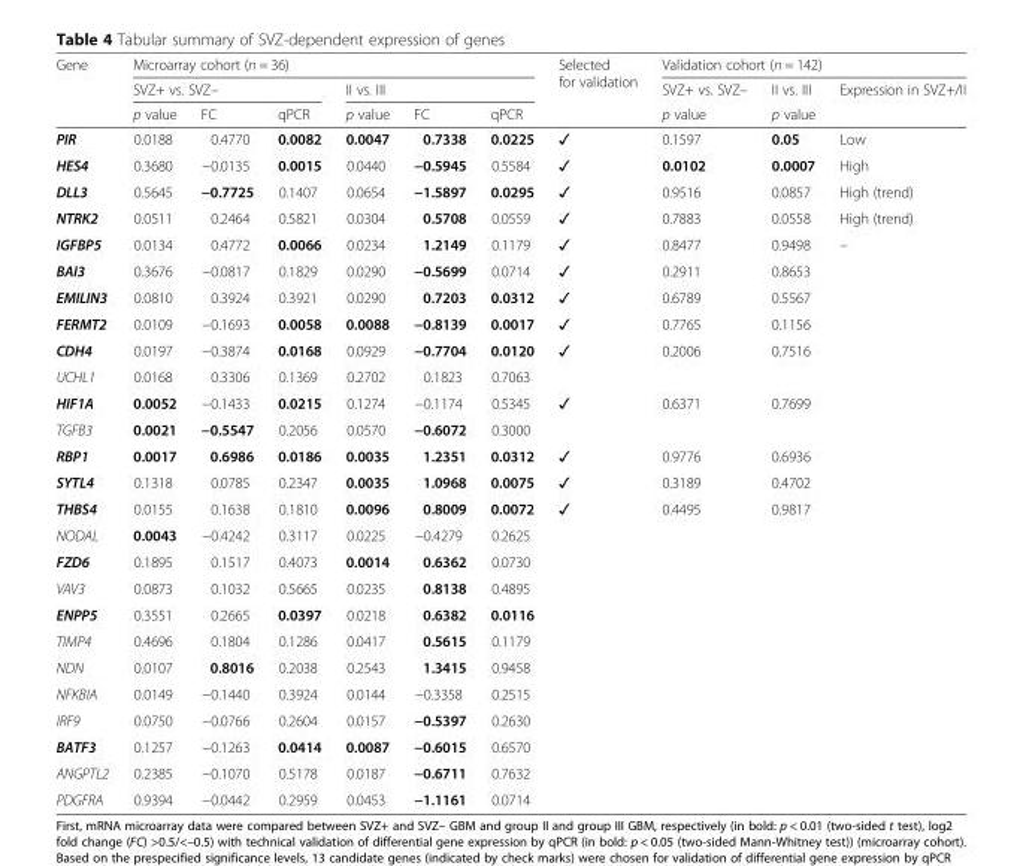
<table><thead><tr><td rowspan="3">Gene</td><td colspan="6">Microarray cohort (n = 36)</td><td rowspan="3">Selected for validation</td><td colspan="3">Validation cohort (n = 142)</td></tr><tr><td colspan="3">SVZ+ vs. SVZ–</td><td colspan="3">II vs. III</td><td rowspan="2">SVZ+ vs. SVZ– p value</td><td rowspan="2">II vs. III p value</td><td rowspan="2">Expression in SVZ+/II</td></tr><tr><td>p value</td><td>FC</td><td>qPCR</td><td>p value</td><td>FC</td><td>qPCR</td></tr></thead><tbody><tr><td>PIR</td><td>0.0188</td><td>0.4770</td><td>0.0082</td><td>0.0047</td><td>0.7338</td><td>0.0225</td><td>✓</td><td>0.1597</td><td>0.05</td><td>Low</td></tr><tr><td>HES4</td><td>0.3680</td><td>−0.0135</td><td>0.0015</td><td>0.0440</td><td>−0.5945</td><td>0.5584</td><td>✓</td><td>0.0102</td><td>0.0007</td><td>High</td></tr><tr><td>DLL3</td><td>0.5645</td><td>−0.7725</td><td>0.1407</td><td>0.0654</td><td>−1.5897</td><td>0.0295</td><td>✓</td><td>0.9516</td><td>0.0857</td><td>High (trend)</td></tr><tr><td>NTRK2</td><td>0.0511</td><td>0.2464</td><td>0.5821</td><td>0.0304</td><td>0.5708</td><td>0.0559</td><td>✓</td><td>0.7883</td><td>0.0558</td><td>High (trend)</td></tr><tr><td>IGFBP5</td><td>0.0134</td><td>0.4772</td><td>0.0066</td><td>0.0234</td><td>1.2149</td><td>0.1179</td><td>✓</td><td>0.8477</td><td>0.9498</td><td>–</td></tr><tr><td>BAI3</td><td>0.3676</td><td>−0.0817</td><td>0.1829</td><td>0.0290</td><td>−0.5699</td><td>0.0714</td><td>✓</td><td>0.2911</td><td>0.8653</td><td></td></tr><tr><td>EMILIN3</td><td>0.0810</td><td>0.3924</td><td>0.3921</td><td>0.0290</td><td>0.7203</td><td>0.0312</td><td>✓</td><td>0.6789</td><td>0.5567</td><td></td></tr><tr><td>FERMT2</td><td>0.0109</td><td>−0.1693</td><td>0.0058</td><td>0.0088</td><td>−0.8139</td><td>0.0017</td><td>✓</td><td>0.7765</td><td>0.1156</td><td></td></tr><tr><td>CDH4</td><td>0.0197</td><td>−0.3874</td><td>0.0168</td><td>0.0929</td><td>−0.7704</td><td>0.0120</td><td>✓</td><td>0.2006</td><td>0.7516</td><td></td></tr><tr><td>UCHL1</td><td>0.0168</td><td>0.3306</td><td>0.1369</td><td>0.2702</td><td>0.1823</td><td>0.7063</td><td></td><td></td><td></td><td></td></tr><tr><td>HIF1A</td><td>0.0052</td><td>−0.1433</td><td>0.0215</td><td>0.1274</td><td>−0.1174</td><td>0.5345</td><td>✓</td><td>0.6371</td><td>0.7699</td><td></td></tr><tr><td>TGFB3</td><td>0.0021</td><td>−0.5547</td><td>0.2056</td><td>0.0570</td><td>−0.6072</td><td>0.3000</td><td></td><td></td><td></td><td></td></tr><tr><td>RBP1</td><td>0.0017</td><td>0.6986</td><td>0.0186</td><td>0.0035</td><td>1.2351</td><td>0.0312</td><td>✓</td><td>0.9776</td><td>0.6936</td><td></td></tr><tr><td>SYTL4</td><td>0.1318</td><td>0.0785</td><td>0.2347</td><td>0.0035</td><td>1.0968</td><td>0.0075</td><td>✓</td><td>0.3189</td><td>0.4702</td><td></td></tr><tr><td>THBS4</td><td>0.0155</td><td>0.1638</td><td>0.1810</td><td>0.0096</td><td>0.8009</td><td>0.0072</td><td>✓</td><td>0.4495</td><td>0.9817</td><td></td></tr><tr><td>NODAL</td><td>0.0043</td><td>−0.4242</td><td>0.3117</td><td>0.0225</td><td>−0.4279</td><td>0.2625</td><td></td><td></td><td></td><td></td></tr><tr><td>FZD6</td><td>0.1895</td><td>0.1517</td><td>0.4073</td><td>0.0014</td><td>0.6362</td><td>0.0730</td><td></td><td></td><td></td><td></td></tr><tr><td>VAV3</td><td>0.0873</td><td>0.1032</td><td>0.5665</td><td>0.0235</td><td>0.8138</td><td>0.4895</td><td></td><td></td><td></td><td></td></tr><tr><td>ENPP5</td><td>0.3551</td><td>0.2665</td><td>0.0397</td><td>0.0218</td><td>0.6382</td><td>0.0116</td><td></td><td></td><td></td><td></td></tr><tr><td>TIMP4</td><td>0.4696</td><td>0.1804</td><td>0.1286</td><td>0.0417</td><td>0.5615</td><td>0.1179</td><td></td><td></td><td></td><td></td></tr><tr><td>NDN</td><td>0.0107</td><td>0.8016</td><td>0.2038</td><td>0.2543</td><td>1.3415</td><td>0.9458</td><td></td><td></td><td></td><td></td></tr><tr><td>NFKBIA</td><td>0.0149</td><td>−0.1440</td><td>0.3924</td><td>0.0144</td><td>−0.3358</td><td>0.2515</td><td></td><td></td><td></td><td></td></tr><tr><td>IRF9</td><td>0.0750</td><td>−0.0766</td><td>0.2604</td><td>0.0157</td><td>−0.5397</td><td>0.2630</td><td></td><td></td><td></td><td></td></tr><tr><td>BATF3</td><td>0.1257</td><td>−0.1263</td><td>0.0414</td><td>0.0087</td><td>−0.6015</td><td>0.6570</td><td></td><td></td><td></td><td></td></tr><tr><td>ANGPTL2</td><td>0.2385</td><td>−0.1070</td><td>0.5178</td><td>0.0187</td><td>−0.6711</td><td>0.7632</td><td></td><td></td><td></td><td></td></tr><tr><td>PDGFRA</td><td>0.9394</td><td>−0.0442</td><td>0.2959</td><td>0.0453</td><td>−1.1161</td><td>0.0714</td><td></td><td></td><td></td><td></td></tr></tbody></table>